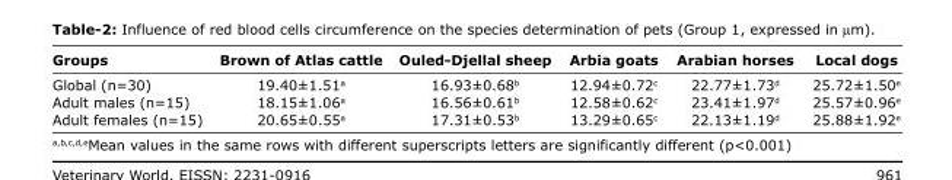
<table><thead><tr><td>Groups</td><td>Brown of Atlas cattle</td><td>Ouled-Djellal sheep</td><td>Arbia goats</td><td>Arabian horses</td><td>Local dogs</td></tr></thead><tbody><tr><td>Global (n=30)</td><td>19.40±1.51<sup>a</sup></td><td>16.93±0.68<sup>b</sup></td><td>12.94±0.72<sup>c</sup></td><td>22.77±1.73<sup>d</sup></td><td>25.72±1.50<sup>e</sup></td></tr><tr><td>Adult males (n=15)</td><td>18.15±1.06<sup>a</sup></td><td>16.56±0.61<sup>b</sup></td><td>12.58±0.62<sup>c</sup></td><td>23.41±1.97<sup>d</sup></td><td>25.57±0.96<sup>e</sup></td></tr><tr><td>Adult females (n=15)</td><td>20.65±0.55<sup>a</sup></td><td>17.31±0.53<sup>b</sup></td><td>13.29±0.65<sup>c</sup></td><td>22.13±1.19<sup>d</sup></td><td>25.88±1.92<sup>e</sup></td></tr></tbody></table>